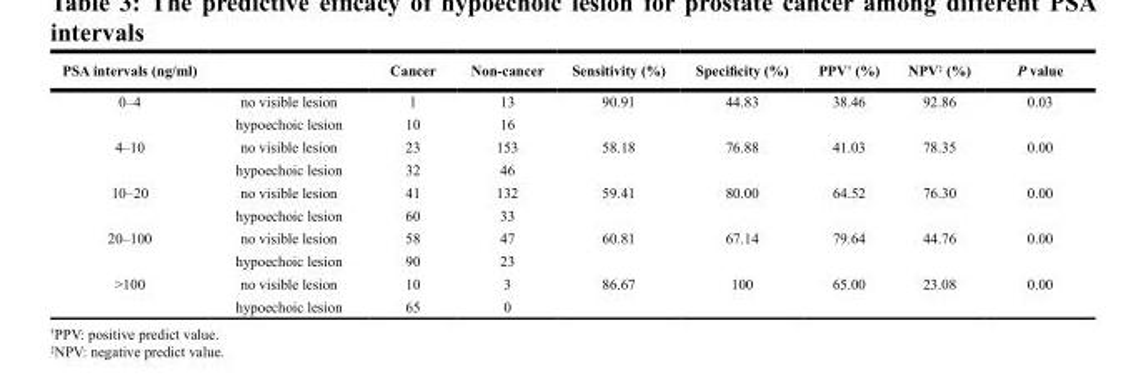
<table><thead><tr><td>PSA intervals (ng/ml)</td><td></td><td>Cancer</td><td>Non-cancer</td><td>Sensitivity (%)</td><td>Specificity (%)</td><td>PPV<sup>†</sup> (%)</td><td>NPV<sup>‡</sup> (%)</td><td>P value</td></tr></thead><tbody><tr><td rowspan="2">0–4</td><td>no visible lesion</td><td>1</td><td>13</td><td>90.91</td><td>44.83</td><td>38.46</td><td>92.86</td><td>0.03</td></tr><tr><td>hypoechoic lesion</td><td>10</td><td>16</td><td></td><td></td><td></td><td></td><td></td></tr><tr><td rowspan="2">4–10</td><td>no visible lesion</td><td>23</td><td>153</td><td>58.18</td><td>76.88</td><td>41.03</td><td>78.35</td><td>0.00</td></tr><tr><td>hypoechoic lesion</td><td>32</td><td>46</td><td></td><td></td><td></td><td></td><td></td></tr><tr><td rowspan="2">10–20</td><td>no visible lesion</td><td>41</td><td>132</td><td>59.41</td><td>80.00</td><td>64.52</td><td>76.30</td><td>0.00</td></tr><tr><td>hypoechoic lesion</td><td>60</td><td>33</td><td></td><td></td><td></td><td></td><td></td></tr><tr><td rowspan="2">20–100</td><td>no visible lesion</td><td>58</td><td>47</td><td>60.81</td><td>67.14</td><td>79.64</td><td>44.76</td><td>0.00</td></tr><tr><td>hypoechoic lesion</td><td>90</td><td>23</td><td></td><td></td><td></td><td></td><td></td></tr><tr><td rowspan="2">&gt;100</td><td>no visible lesion</td><td>10</td><td>3</td><td>86.67</td><td>100</td><td>65.00</td><td>23.08</td><td>0.00</td></tr><tr><td>hypoechoic lesion</td><td>65</td><td>0</td><td></td><td></td><td></td><td></td><td></td></tr></tbody></table>